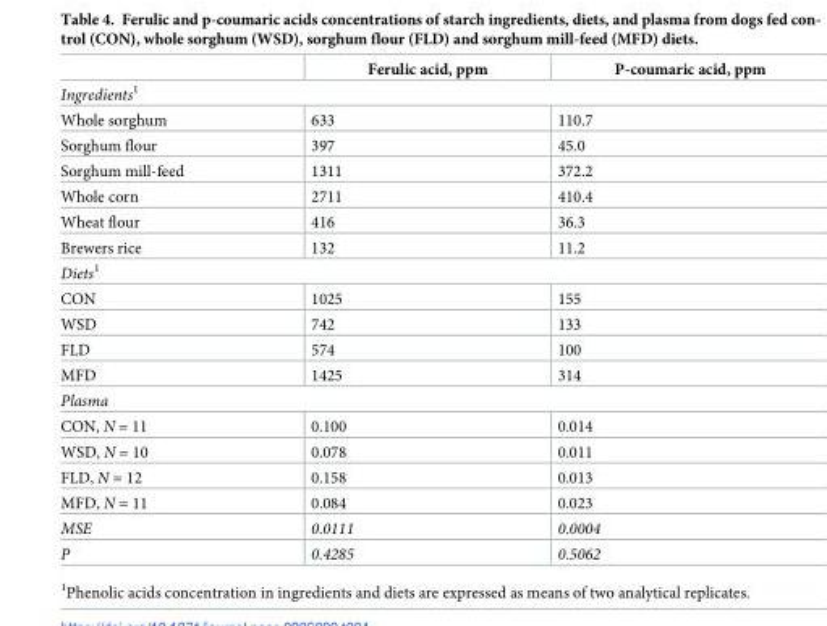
<table><thead><tr><td></td><td>Ferulic acid, ppm</td><td>P-coumaric acid, ppm</td></tr></thead><tbody><tr><td colspan="3">Ingredients<sup>1</sup></td></tr><tr><td>Whole sorghum</td><td>633</td><td>110.7</td></tr><tr><td>Sorghum flour</td><td>397</td><td>45.0</td></tr><tr><td>Sorghum mill-feed</td><td>1311</td><td>372.2</td></tr><tr><td>Whole corn</td><td>2711</td><td>410.4</td></tr><tr><td>Wheat flour</td><td>416</td><td>36.3</td></tr><tr><td>Brewers rice</td><td>132</td><td>11.2</td></tr><tr><td colspan="3">Diets<sup>1</sup></td></tr><tr><td>CON</td><td>1025</td><td>155</td></tr><tr><td>WSD</td><td>742</td><td>133</td></tr><tr><td>FLD</td><td>574</td><td>100</td></tr><tr><td>MFD</td><td>1425</td><td>314</td></tr><tr><td colspan="3">Plasma</td></tr><tr><td>CON, N = 11</td><td>0.100</td><td>0.014</td></tr><tr><td>WSD, N = 10</td><td>0.078</td><td>0.011</td></tr><tr><td>FLD, N = 12</td><td>0.158</td><td>0.013</td></tr><tr><td>MFD, N = 11</td><td>0.084</td><td>0.023</td></tr><tr><td>MSE</td><td>0.0111</td><td>0.0004</td></tr><tr><td>P</td><td>0.4285</td><td>0.5062</td></tr></tbody></table>